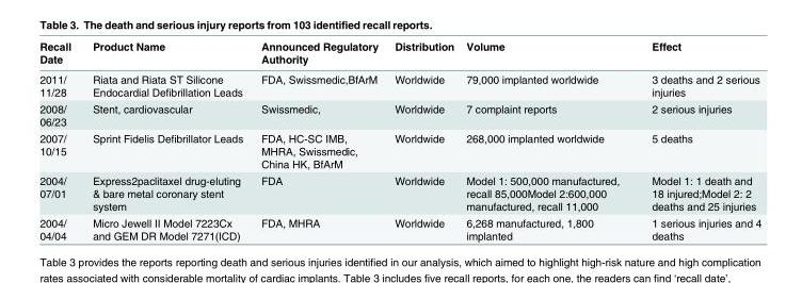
<table><thead><tr><td>Recall Date</td><td>Product Name</td><td>Announced Regulatory Authority</td><td>Distribution</td><td>Volume</td><td>Effect</td></tr></thead><tbody><tr><td>2011/ 11/28</td><td>Riata and Riata ST Silicone Endocardial Defibrillation Leads</td><td>FDA, Swissmedic,BfArM</td><td>Worldwide</td><td>79,000 implanted worldwide</td><td>3 deaths and 2 serious injuries</td></tr><tr><td>2008/ 06/23</td><td>Stent, cardiovascular</td><td>Swissmedic,</td><td>Worldwide</td><td>7 complaint reports</td><td>2 serious injuries</td></tr><tr><td>2007/ 10/15</td><td>Sprint Fidelis Defibrillator Leads</td><td>FDA, HC-SC IMB, MHRA, Swissmedic, China HK, BfArM</td><td>Worldwide</td><td>268,000 implanted worldwide</td><td>5 deaths</td></tr><tr><td>2004/ 07/01</td><td>Express2paclitaxel drug-eluting &amp; bare metal coronary stent system</td><td>FDA</td><td>Worldwide</td><td>Model 1: 500,000 manufactured, recall 85,000Model 2:600,000 manufactured, recall 11,000</td><td>Model 1: 1 death and 18 injured;Model 2: 2 deaths and 25 injuries</td></tr><tr><td>2004/ 04/04</td><td>Micro Jewell II Model 7223Cx and GEM DR Model 7271(ICD)</td><td>FDA, MHRA</td><td>Worldwide</td><td>6,268 manufactured, 1,800 implanted</td><td>1 serious injuries and 4 deaths</td></tr></tbody></table>